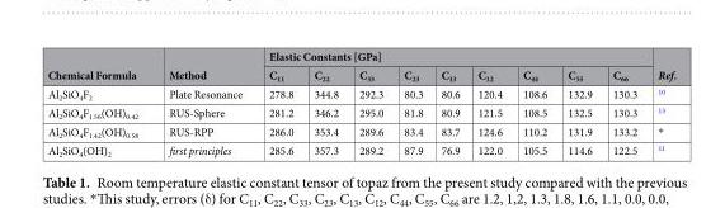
<table><thead><tr><td rowspan="2">Chemical Formula</td><td rowspan="2">Method</td><td colspan="9">Elastic Constants [GPa]</td><td rowspan="2">Ref.</td></tr><tr><td>C<sub>11</sub></td><td>C<sub>22</sub></td><td>C<sub>33</sub></td><td>C<sub>23</sub></td><td>C<sub>13</sub></td><td>C<sub>12</sub></td><td>C<sub>44</sub></td><td>C<sub>55</sub></td><td>C<sub>66</sub></td></tr></thead><tbody><tr><td>Al<sub>2</sub>SiO<sub>4</sub>F<sub>2</sub></td><td>Plate Resonance</td><td>278.8</td><td>344.8</td><td>292.3</td><td>80.3</td><td>80.6</td><td>120.4</td><td>108.6</td><td>132.9</td><td>130.3</td><td><sup>10</sup></td></tr><tr><td>Al<sub>2</sub>SiO<sub>4</sub>F<sub>1.56</sub>(OH)<sub>0.42</sub></td><td>RUS-Sphere</td><td>281.2</td><td>346.2</td><td>295.0</td><td>81.8</td><td>80.9</td><td>121.5</td><td>108.5</td><td>132.5</td><td>130.3</td><td><sup>13</sup></td></tr><tr><td>Al<sub>2</sub>SiO<sub>4</sub>F<sub>1.42</sub>(OH)<sub>0.58</sub></td><td>RUS-RPP</td><td>286.0</td><td>353.4</td><td>289.6</td><td>83.4</td><td>83.7</td><td>124.6</td><td>110.2</td><td>131.9</td><td>133.2</td><td>*</td></tr><tr><td>Al<sub>2</sub>SiO<sub>4</sub>(OH)<sub>2</sub></td><td>first principles</td><td>285.6</td><td>357.3</td><td>289.2</td><td>87.9</td><td>76.9</td><td>122.0</td><td>105.5</td><td>114.6</td><td>122.5</td><td><sup>11</sup></td></tr></tbody></table>